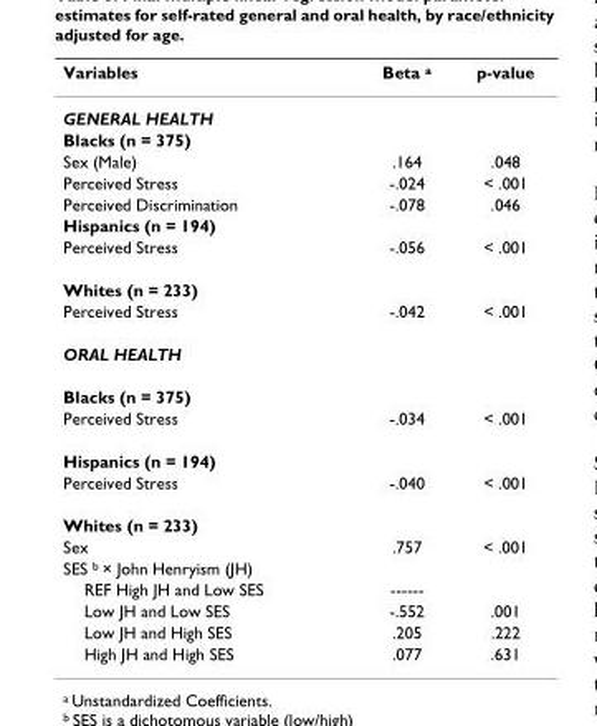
<table><thead><tr><td>Variables</td><td>Beta <sup>a</sup></td><td>p-value</td></tr></thead><tbody><tr><td colspan="3">GENERAL HEALTH</td></tr><tr><td colspan="3">Blacks (n = 375)</td></tr><tr><td>Sex (Male)</td><td>.164</td><td>.048</td></tr><tr><td>Perceived Stress</td><td>-.024</td><td>&lt; .001</td></tr><tr><td>Perceived Discrimination</td><td>-.078</td><td>.046</td></tr><tr><td colspan="3">Hispanics (n = 194)</td></tr><tr><td>Perceived Stress</td><td>-.056</td><td>&lt; .001</td></tr><tr><td colspan="3">Whites (n = 233)</td></tr><tr><td>Perceived Stress</td><td>-.042</td><td>&lt; .001</td></tr><tr><td colspan="3">ORAL HEALTH</td></tr><tr><td colspan="3">Blacks (n = 375)</td></tr><tr><td>Perceived Stress</td><td>-.034</td><td>&lt; .001</td></tr><tr><td colspan="3">Hispanics (n = 194)</td></tr><tr><td>Perceived Stress</td><td>-.040</td><td>&lt; .001</td></tr><tr><td colspan="3">Whites (n = 233)</td></tr><tr><td>Sex</td><td>.757</td><td>&lt; .001</td></tr><tr><td colspan="3">SES <sup>b</sup> × John Henryism (JH)</td></tr><tr><td>REF High JH and Low SES</td><td>------</td><td></td></tr><tr><td>Low JH and Low SES</td><td>-.552</td><td>.001</td></tr><tr><td>Low JH and High SES</td><td>.205</td><td>.222</td></tr><tr><td>High JH and High SES</td><td>.077</td><td>.631</td></tr></tbody></table>